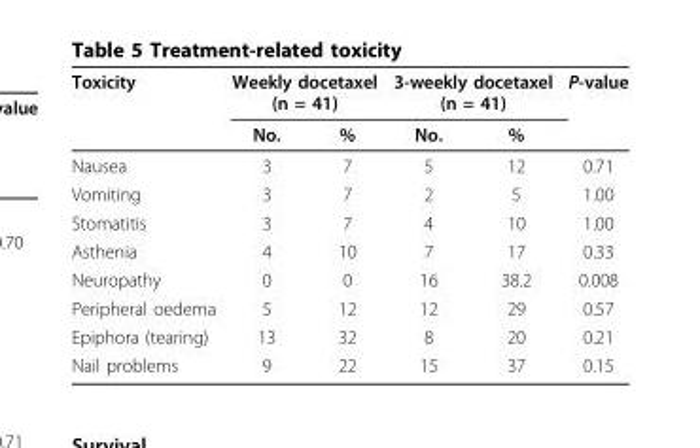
<table><thead><tr><td rowspan="2">Toxicity</td><td colspan="2">Weekly docetaxel (n = 41)</td><td colspan="2">3-weekly docetaxel (n = 41)</td><td rowspan="2">P-value</td></tr><tr><td>No.</td><td>%</td><td>No.</td><td>%</td></tr></thead><tbody><tr><td>Nausea</td><td>3</td><td>7</td><td>5</td><td>12</td><td>0.71</td></tr><tr><td>Vomiting</td><td>3</td><td>7</td><td>2</td><td>5</td><td>1.00</td></tr><tr><td>Stomatitis</td><td>3</td><td>7</td><td>4</td><td>10</td><td>1.00</td></tr><tr><td>Asthenia</td><td>4</td><td>10</td><td>7</td><td>17</td><td>0.33</td></tr><tr><td>Neuropathy</td><td>0</td><td>0</td><td>16</td><td>38.2</td><td>0.008</td></tr><tr><td>Peripheral oedema</td><td>5</td><td>12</td><td>12</td><td>29</td><td>0.57</td></tr><tr><td>Epiphora (tearing)</td><td>13</td><td>32</td><td>8</td><td>20</td><td>0.21</td></tr><tr><td>Nail problems</td><td>9</td><td>22</td><td>15</td><td>37</td><td>0.15</td></tr></tbody></table>